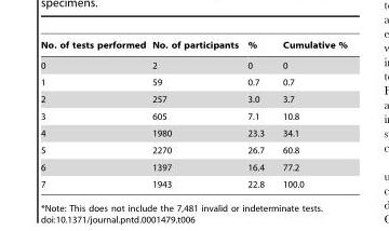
<table><thead><tr><td>No. of tests performed</td><td>No. of participants</td><td>%</td><td>Cumulative %</td></tr></thead><tbody><tr><td>0</td><td>2</td><td>0</td><td>0</td></tr><tr><td>1</td><td>59</td><td>0.7</td><td>0.7</td></tr><tr><td>2</td><td>257</td><td>3.0</td><td>3.7</td></tr><tr><td>3</td><td>605</td><td>7.1</td><td>10.8</td></tr><tr><td>4</td><td>1980</td><td>23.3</td><td>34.1</td></tr><tr><td>5</td><td>2270</td><td>26.7</td><td>60.8</td></tr><tr><td>6</td><td>1397</td><td>16.4</td><td>77.2</td></tr><tr><td>7</td><td>1943</td><td>22.8</td><td>100.0</td></tr></tbody></table>